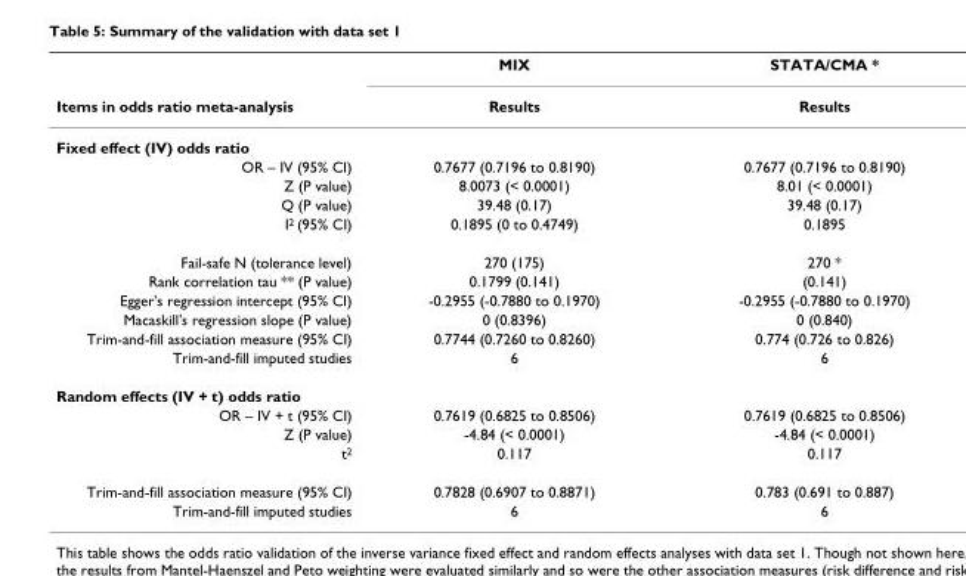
<table><thead><tr><td rowspan="2">Items in odds ratio meta-analysis</td><td rowspan="2">MIX Results</td><td rowspan="2">STATA/CMA * Results</td></tr><tr></tr></thead><tbody><tr><td colspan="3">Fixed effect (IV) odds ratio</td></tr><tr><td>OR – IV (95% CI)</td><td>0.7677 (0.7196 to 0.8190)</td><td>0.7677 (0.7196 to 0.8190)</td></tr><tr><td>Z (P value)</td><td>8.0073 (&lt; 0.0001)</td><td>8.01 (&lt; 0.0001)</td></tr><tr><td>Q (P value)</td><td>39.48 (0.17)</td><td>39.48 (0.17)</td></tr><tr><td>I<sup>2</sup> (95% CI)</td><td>0.1895 (0 to 0.4749)</td><td>0.1895</td></tr><tr><td>Fail-safe N (tolerance level)</td><td>270 (175)</td><td>270 *</td></tr><tr><td>Rank correlation tau ** (P value)</td><td>0.1799 (0.141)</td><td>(0.141)</td></tr><tr><td>Egger&#x27;s regression intercept (95% CI)</td><td>-0.2955 (-0.7880 to 0.1970)</td><td>-0.2955 (-0.7880 to 0.1970)</td></tr><tr><td>Macaskill&#x27;s regression slope (P value)</td><td>0 (0.8396)</td><td>0 (0.840)</td></tr><tr><td>Trim-and-fill association measure (95% CI)</td><td>0.7744 (0.7260 to 0.8260)</td><td>0.774 (0.726 to 0.826)</td></tr><tr><td>Trim-and-fill imputed studies</td><td>6</td><td>6</td></tr><tr><td colspan="3">Random effects (IV + t) odds ratio</td></tr><tr><td>OR – IV + t (95% CI)</td><td>0.7619 (0.6825 to 0.8506)</td><td>0.7619 (0.6825 to 0.8506)</td></tr><tr><td>Z (P value)</td><td>-4.84 (&lt; 0.0001)</td><td>-4.84 (&lt; 0.0001)</td></tr><tr><td>t<sup>2</sup></td><td>0.117</td><td>0.117</td></tr><tr><td>Trim-and-fill association measure (95% CI)</td><td>0.7828 (0.6907 to 0.8871)</td><td>0.783 (0.691 to 0.887)</td></tr><tr><td>Trim-and-fill imputed studies</td><td>6</td><td>6</td></tr></tbody></table>